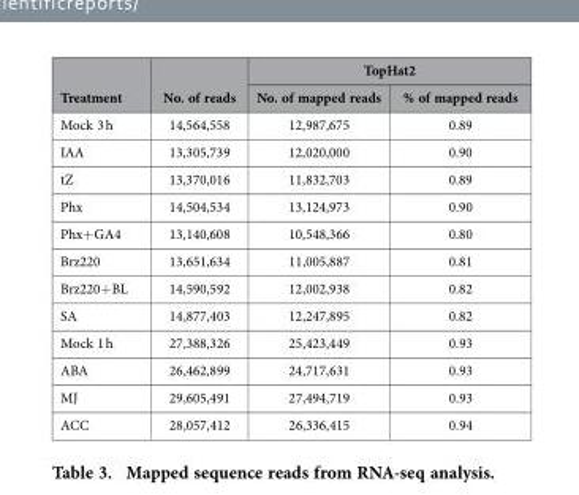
<table><thead><tr><td rowspan="2">Treatment</td><td rowspan="2">No. of reads</td><td colspan="2">TopHat2</td></tr><tr><td>No. of mapped reads</td><td>% of mapped reads</td></tr></thead><tbody><tr><td>Mock 3 h</td><td>14,564,558</td><td>12,987,675</td><td>0.89</td></tr><tr><td>IAA</td><td>13,305,739</td><td>12,020,000</td><td>0.90</td></tr><tr><td>tZ</td><td>13,370,016</td><td>11,832,703</td><td>0.89</td></tr><tr><td>Phx</td><td>14,504,534</td><td>13,124,973</td><td>0.90</td></tr><tr><td>Phx+ GA4</td><td>13,140,608</td><td>10,548,366</td><td>0.80</td></tr><tr><td>Brz220</td><td>13,651,634</td><td>11,005,887</td><td>0.81</td></tr><tr><td>Brz220+ BL</td><td>14,590,592</td><td>12,002,938</td><td>0.82</td></tr><tr><td>SA</td><td>14,877,403</td><td>12,247,895</td><td>0.82</td></tr><tr><td>Mock 1 h</td><td>27,388,326</td><td>25,423,449</td><td>0.93</td></tr><tr><td>ABA</td><td>26,462,899</td><td>24,717,631</td><td>0.93</td></tr><tr><td>MJ</td><td>29,605,491</td><td>27,494,719</td><td>0.93</td></tr><tr><td>ACC</td><td>28,057,412</td><td>26,336,415</td><td>0.94</td></tr></tbody></table>